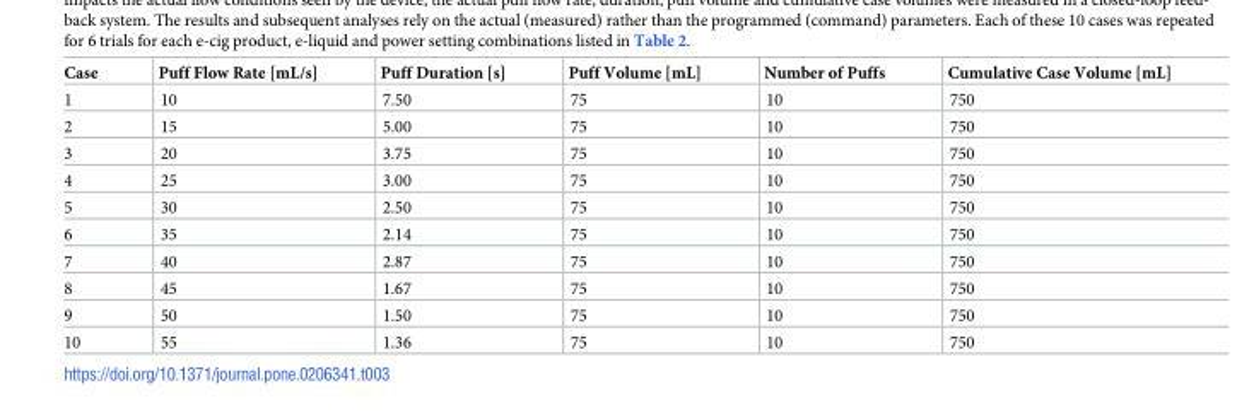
<table><thead><tr><td>Case</td><td>Puff Flow Rate [mL/s]</td><td>Puff Duration [s]</td><td>Puff Volume [mL]</td><td>Number of Puffs</td><td>Cumulative Case Volume [mL]</td></tr></thead><tbody><tr><td>1</td><td>10</td><td>7.50</td><td>75</td><td>10</td><td>750</td></tr><tr><td>2</td><td>15</td><td>5.00</td><td>75</td><td>10</td><td>750</td></tr><tr><td>3</td><td>20</td><td>3.75</td><td>75</td><td>10</td><td>750</td></tr><tr><td>4</td><td>25</td><td>3.00</td><td>75</td><td>10</td><td>750</td></tr><tr><td>5</td><td>30</td><td>2.50</td><td>75</td><td>10</td><td>750</td></tr><tr><td>6</td><td>35</td><td>2.14</td><td>75</td><td>10</td><td>750</td></tr><tr><td>7</td><td>40</td><td>2.87</td><td>75</td><td>10</td><td>750</td></tr><tr><td>8</td><td>45</td><td>1.67</td><td>75</td><td>10</td><td>750</td></tr><tr><td>9</td><td>50</td><td>1.50</td><td>75</td><td>10</td><td>750</td></tr><tr><td>10</td><td>55</td><td>1.36</td><td>75</td><td>10</td><td>750</td></tr></tbody></table>